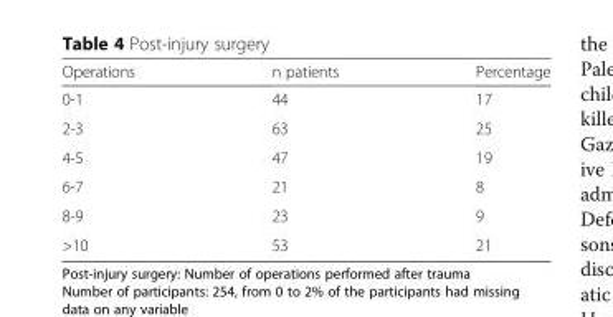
<table><thead><tr><td>Operations</td><td>n patients</td><td>Percentage</td></tr></thead><tbody><tr><td>0-1</td><td>44</td><td>17</td></tr><tr><td>2-3</td><td>63</td><td>25</td></tr><tr><td>4-5</td><td>47</td><td>19</td></tr><tr><td>6-7</td><td>21</td><td>8</td></tr><tr><td>8-9</td><td>23</td><td>9</td></tr><tr><td>&gt;10</td><td>53</td><td>21</td></tr></tbody></table>